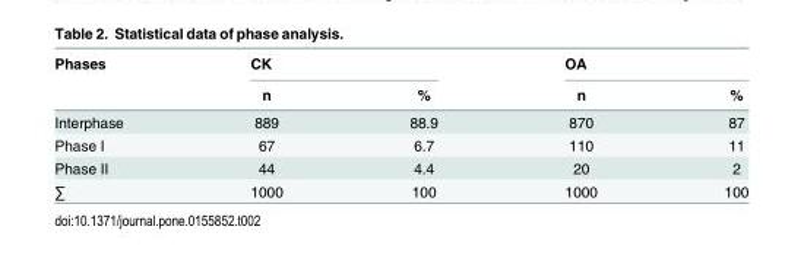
<table><thead><tr><td rowspan="2">Phases</td><td colspan="2">CK</td><td colspan="2">OA</td></tr><tr><td>n</td><td>%</td><td>n</td><td>%</td></tr></thead><tbody><tr><td>Interphase</td><td>889</td><td>88.9</td><td>870</td><td>87</td></tr><tr><td>Phase I</td><td>67</td><td>6.7</td><td>110</td><td>11</td></tr><tr><td>Phase II</td><td>44</td><td>4.4</td><td>20</td><td>2</td></tr><tr><td>∑</td><td>1000</td><td>100</td><td>1000</td><td>100</td></tr></tbody></table>